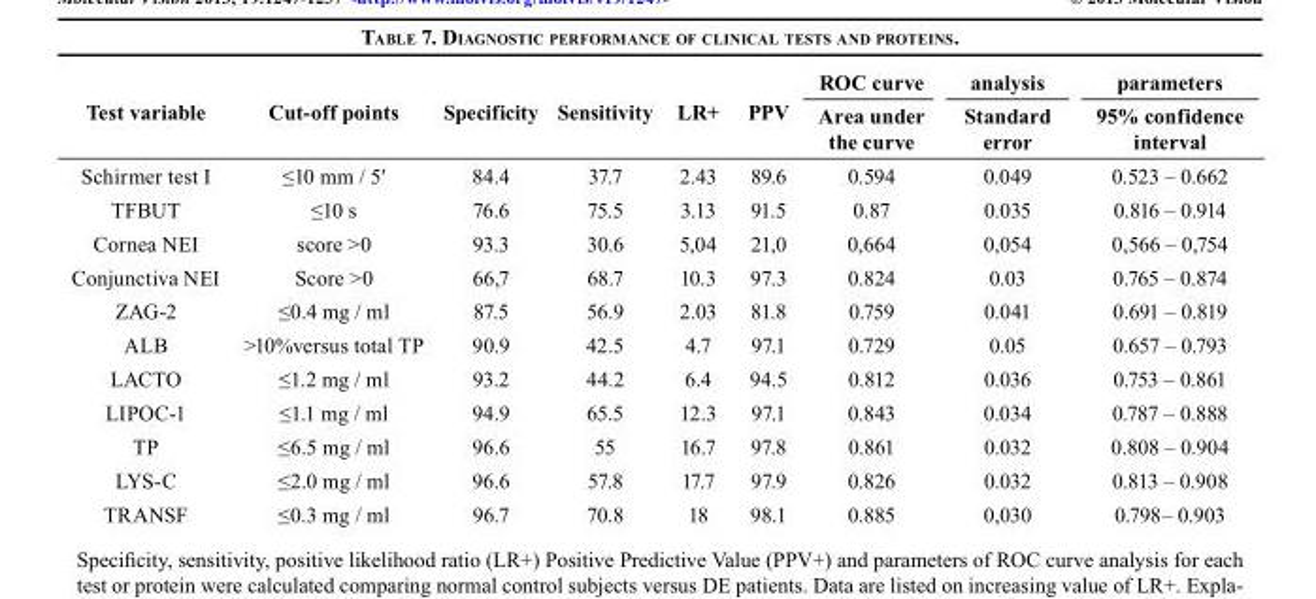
<table><thead><tr><td rowspan="2">Test variable</td><td rowspan="2">Cut-off points</td><td rowspan="2">Specificity</td><td rowspan="2">Sensitivity</td><td rowspan="2">LR+</td><td rowspan="2">PPV</td><td rowspan="2">ROC curve Area under the curve</td><td rowspan="2">analysis Standard error</td><td rowspan="2">parameters 95% confidence interval</td></tr><tr></tr></thead><tbody><tr><td>Schirmer test I</td><td>≤10 mm / 5′</td><td>84.4</td><td>37.7</td><td>2.43</td><td>89.6</td><td>0.594</td><td>0.049</td><td>0.523 – 0.662</td></tr><tr><td>TFBUT</td><td>≤10 s</td><td>76.6</td><td>75.5</td><td>3.13</td><td>91.5</td><td>0.87</td><td>0.035</td><td>0.816 – 0.914</td></tr><tr><td>Cornea NEI</td><td>score &gt;0</td><td>93.3</td><td>30.6</td><td>5,04</td><td>21,0</td><td>0,664</td><td>0,054</td><td>0,566 – 0,754</td></tr><tr><td>Conjunctiva NEI</td><td>Score &gt;0</td><td>66,7</td><td>68.7</td><td>10.3</td><td>97.3</td><td>0.824</td><td>0.03</td><td>0.765 – 0.874</td></tr><tr><td>ZAG-2</td><td>≤0.4 mg / ml</td><td>87.5</td><td>56.9</td><td>2.03</td><td>81.8</td><td>0.759</td><td>0.041</td><td>0.691 – 0.819</td></tr><tr><td>ALB</td><td>&gt;10%versus total TP</td><td>90.9</td><td>42.5</td><td>4.7</td><td>97.1</td><td>0.729</td><td>0.05</td><td>0.657 – 0.793</td></tr><tr><td>LACTO</td><td>≤1.2 mg / ml</td><td>93.2</td><td>44.2</td><td>6.4</td><td>94.5</td><td>0.812</td><td>0.036</td><td>0.753 – 0.861</td></tr><tr><td>LIPOC-1</td><td>≤1.1 mg / ml</td><td>94.9</td><td>65.5</td><td>12.3</td><td>97.1</td><td>0.843</td><td>0.034</td><td>0.787 – 0.888</td></tr><tr><td>TP</td><td>≤6.5 mg / ml</td><td>96.6</td><td>55</td><td>16.7</td><td>97.8</td><td>0.861</td><td>0.032</td><td>0.808 – 0.904</td></tr><tr><td>LYS-C</td><td>≤2.0 mg / ml</td><td>96.6</td><td>57.8</td><td>17.7</td><td>97.9</td><td>0.826</td><td>0.032</td><td>0.813 – 0.908</td></tr><tr><td>TRANSF</td><td>≤0.3 mg / ml</td><td>96.7</td><td>70.8</td><td>18</td><td>98.1</td><td>0.885</td><td>0,030</td><td>0.798– 0.903</td></tr></tbody></table>